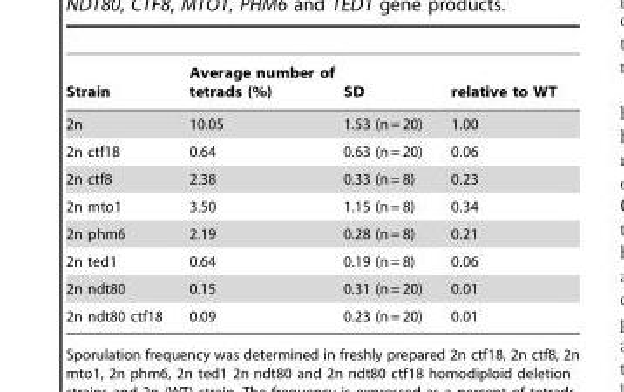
<table><thead><tr><td>Strain</td><td>Average number of tetrads (%)</td><td>SD</td><td>relative to WT</td></tr></thead><tbody><tr><td>2n</td><td>10.05</td><td>1.53 (n = 20)</td><td>1.00</td></tr><tr><td>2n ctf18</td><td>0.64</td><td>0.63 (n = 20)</td><td>0.06</td></tr><tr><td>2n ctf8</td><td>2.38</td><td>0.33 (n = 8)</td><td>0.23</td></tr><tr><td>2n mto1</td><td>3.50</td><td>1.15 (n = 8)</td><td>0.34</td></tr><tr><td>2n phm6</td><td>2.19</td><td>0.28 (n = 8)</td><td>0.21</td></tr><tr><td>2n ted1</td><td>0.64</td><td>0.19 (n = 8)</td><td>0.06</td></tr><tr><td>2n ndt80</td><td>0.15</td><td>0.31 (n = 20)</td><td>0.01</td></tr><tr><td>2n ndt80 ctf18</td><td>0.09</td><td>0.23 (n = 20)</td><td>0.01</td></tr></tbody></table>